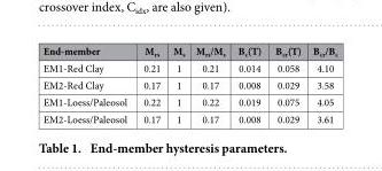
<table><thead><tr><td>End-member</td><td>M<sub>rs</sub></td><td>M<sub>s</sub></td><td>M<sub>rs</sub>/M<sub>s</sub></td><td>B<sub>c</sub>(T)</td><td>B<sub>cr</sub>(T)</td><td>B<sub>cr</sub>/B<sub>c</sub></td></tr></thead><tbody><tr><td>EM1-Red Clay</td><td>0.21</td><td>1</td><td>0.21</td><td>0.014</td><td>0.058</td><td>4.10</td></tr><tr><td>EM2-Red Clay</td><td>0.17</td><td>1</td><td>0.17</td><td>0.008</td><td>0.029</td><td>3.58</td></tr><tr><td>EM1-Loess/Paleosol</td><td>0.22</td><td>1</td><td>0.22</td><td>0.019</td><td>0.075</td><td>4.05</td></tr><tr><td>EM2-Loess/Paleosol</td><td>0.17</td><td>1</td><td>0.17</td><td>0.008</td><td>0.029</td><td>3.61</td></tr></tbody></table>